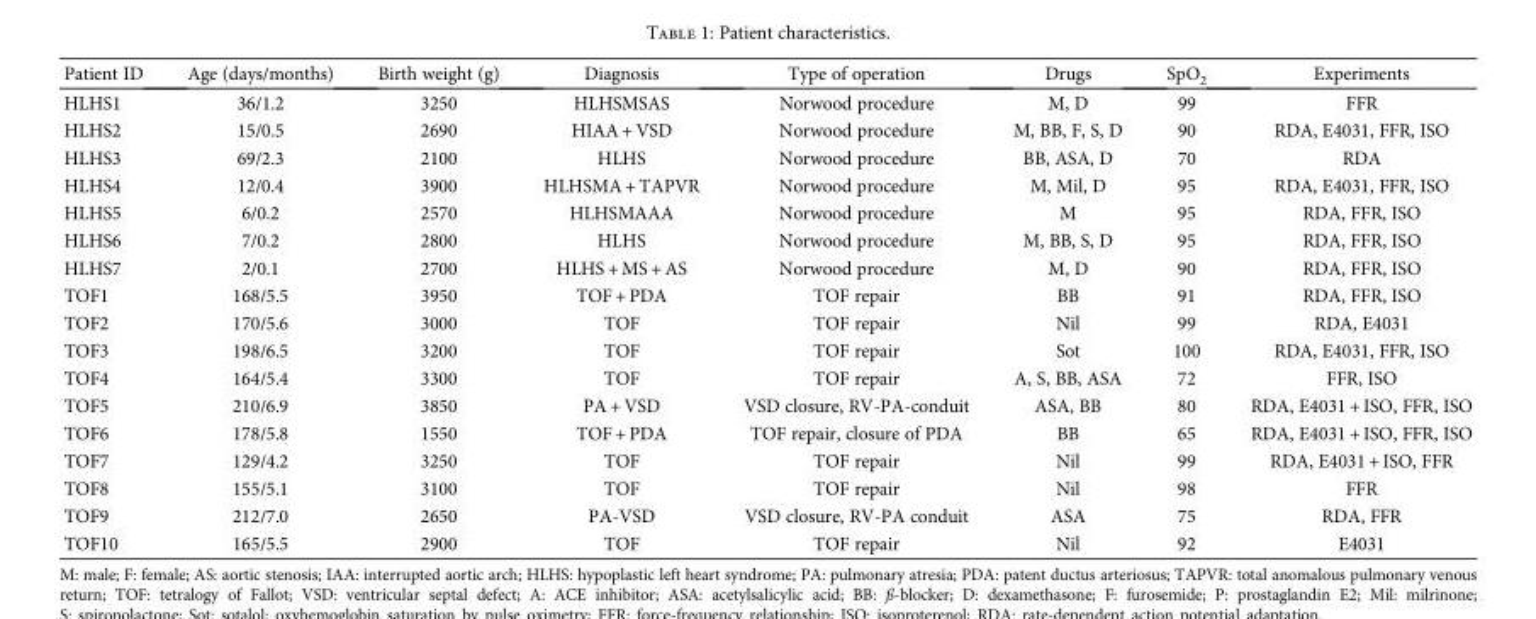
<table><thead><tr><td>Patient ID</td><td>Age (days/months)</td><td>Birth weight (g)</td><td>Diagnosis</td><td>Type of operation</td><td>Drugs</td><td>SpO<sub>2</sub></td><td>Experiments</td></tr></thead><tbody><tr><td>HLHS1</td><td>36/1.2</td><td>3250</td><td>HLHSMSAS</td><td>Norwood procedure</td><td>M, D</td><td>99</td><td>FFR</td></tr><tr><td>HLHS2</td><td>15/0.5</td><td>2690</td><td>HIAA + VSD</td><td>Norwood procedure</td><td>M, BB, F, S, D</td><td>90</td><td>RDA, E4031, FFR, ISO</td></tr><tr><td>HLHS3</td><td>69/2.3</td><td>2100</td><td>HLHS</td><td>Norwood procedure</td><td>BB, ASA, D</td><td>70</td><td>RDA</td></tr><tr><td>HLHS4</td><td>12/0.4</td><td>3900</td><td>HLHSMA + TAPVR</td><td>Norwood procedure</td><td>M, Mil, D</td><td>95</td><td>RDA, E4031, FFR, ISO</td></tr><tr><td>HLHS5</td><td>6/0.2</td><td>2570</td><td>HLHSMAAA</td><td>Norwood procedure</td><td>M</td><td>95</td><td>RDA, FFR, ISO</td></tr><tr><td>HLHS6</td><td>7/0.2</td><td>2800</td><td>HLHS</td><td>Norwood procedure</td><td>M, BB, S, D</td><td>95</td><td>RDA, FFR, ISO</td></tr><tr><td>HLHS7</td><td>2/0.1</td><td>2700</td><td>HLHS + MS + AS</td><td>Norwood procedure</td><td>M, D</td><td>90</td><td>RDA, FFR, ISO</td></tr><tr><td>TOF1</td><td>168/5.5</td><td>3950</td><td>TOF + PDA</td><td>TOF repair</td><td>BB</td><td>91</td><td>RDA, FFR, ISO</td></tr><tr><td>TOF2</td><td>170/5.6</td><td>3000</td><td>TOF</td><td>TOF repair</td><td>Nil</td><td>99</td><td>RDA, E4031</td></tr><tr><td>TOF3</td><td>198/6.5</td><td>3200</td><td>TOF</td><td>TOF repair</td><td>Sot</td><td>100</td><td>RDA, E4031, FFR, ISO</td></tr><tr><td>TOF4</td><td>164/5.4</td><td>3300</td><td>TOF</td><td>TOF repair</td><td>A, S, BB, ASA</td><td>72</td><td>FFR, ISO</td></tr><tr><td>TOF5</td><td>210/6.9</td><td>3850</td><td>PA + VSD</td><td>VSD closure, RV-PA-conduit</td><td>ASA, BB</td><td>80</td><td>RDA, E4031 + ISO, FFR, ISO</td></tr><tr><td>TOF6</td><td>178/5.8</td><td>1550</td><td>TOF + PDA</td><td>TOF repair, closure of PDA</td><td>BB</td><td>65</td><td>RDA, E4031 + ISO, FFR, ISO</td></tr><tr><td>TOF7</td><td>129/4.2</td><td>3250</td><td>TOF</td><td>TOF repair</td><td>Nil</td><td>99</td><td>RDA, E4031 + ISO, FFR</td></tr><tr><td>TOF8</td><td>155/5.1</td><td>3100</td><td>TOF</td><td>TOF repair</td><td>Nil</td><td>98</td><td>FFR</td></tr><tr><td>TOF9</td><td>212/7.0</td><td>2650</td><td>PA-VSD</td><td>VSD closure, RV-PA conduit</td><td>ASA</td><td>75</td><td>RDA, FFR</td></tr><tr><td>TOF10</td><td>165/5.5</td><td>2900</td><td>TOF</td><td>TOF repair</td><td>Nil</td><td>92</td><td>E4031</td></tr></tbody></table>